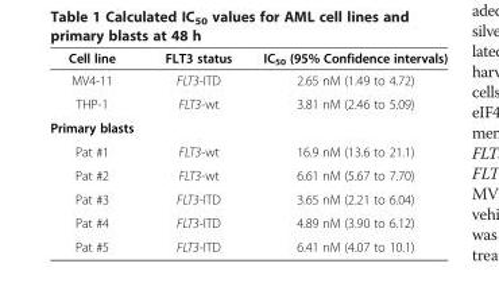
<table><thead><tr><td>Cell line</td><td>FLT3 status</td><td>IC<sub>50</sub> (95% Confidence intervals)</td></tr></thead><tbody><tr><td>MV4-11</td><td>FLT3-ITD</td><td>2.65 nM (1.49 to 4.72)</td></tr><tr><td>THP-1</td><td>FLT3-wt</td><td>3.81 nM (2.46 to 5.09)</td></tr><tr><td colspan="3">Primary blasts</td></tr><tr><td>Pat #1</td><td>FLT3-wt</td><td>16.9 nM (13.6 to 21.1)</td></tr><tr><td>Pat #2</td><td>FLT3-wt</td><td>6.61 nM (5.67 to 7.70)</td></tr><tr><td>Pat #3</td><td>FLT3-ITD</td><td>3.65 nM (2.21 to 6.04)</td></tr><tr><td>Pat #4</td><td>FLT3-ITD</td><td>4.89 nM (3.90 to 6.12)</td></tr><tr><td>Pat #5</td><td>FLT3-ITD</td><td>6.41 nM (4.07 to 10.1)</td></tr></tbody></table>